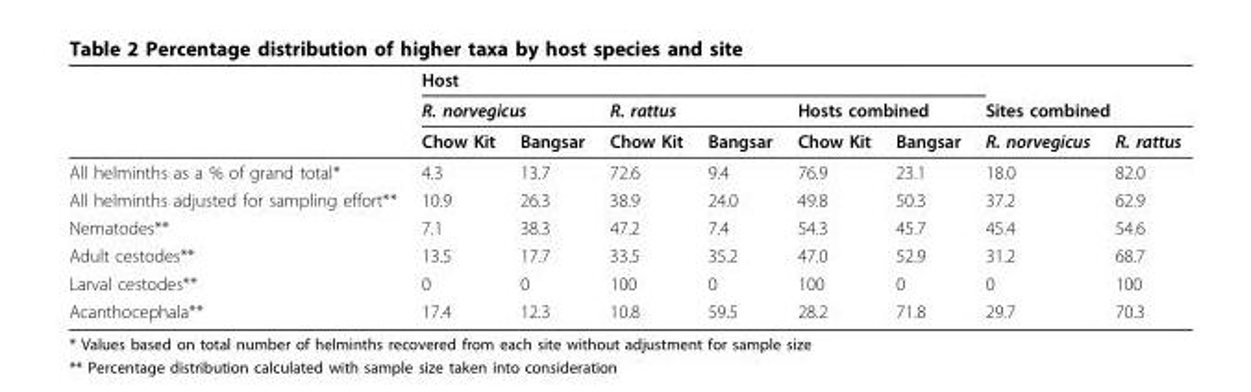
<table><thead><tr><td rowspan="3"></td><td colspan="8">Host</td></tr><tr><td colspan="2">R. norvegicus</td><td colspan="2">R. rattus</td><td colspan="2">Hosts combined</td><td colspan="2">Sites combined</td></tr><tr><td>Chow Kit</td><td>Bangsar</td><td>Chow Kit</td><td>Bangsar</td><td>Chow Kit</td><td>Bangsar</td><td>R. norvegicus</td><td>R. rattus</td></tr></thead><tbody><tr><td>All helminths as a % of grand total*</td><td>4.3</td><td>13.7</td><td>72.6</td><td>9.4</td><td>76.9</td><td>23.1</td><td>18.0</td><td>82.0</td></tr><tr><td>All helminths adjusted for sampling effort**</td><td>10.9</td><td>26.3</td><td>38.9</td><td>24.0</td><td>49.8</td><td>50.3</td><td>37.2</td><td>62.9</td></tr><tr><td>Nematodes**</td><td>7.1</td><td>38.3</td><td>47.2</td><td>7.4</td><td>54.3</td><td>45.7</td><td>45.4</td><td>54.6</td></tr><tr><td>Adult cestodes**</td><td>13.5</td><td>17.7</td><td>33.5</td><td>35.2</td><td>47.0</td><td>52.9</td><td>31.2</td><td>68.7</td></tr><tr><td>Larval cestodes**</td><td>0</td><td>0</td><td>100</td><td>0</td><td>100</td><td>0</td><td>0</td><td>100</td></tr><tr><td>Acanthocephala**</td><td>17.4</td><td>12.3</td><td>10.8</td><td>59.5</td><td>28.2</td><td>71.8</td><td>29.7</td><td>70.3</td></tr></tbody></table>